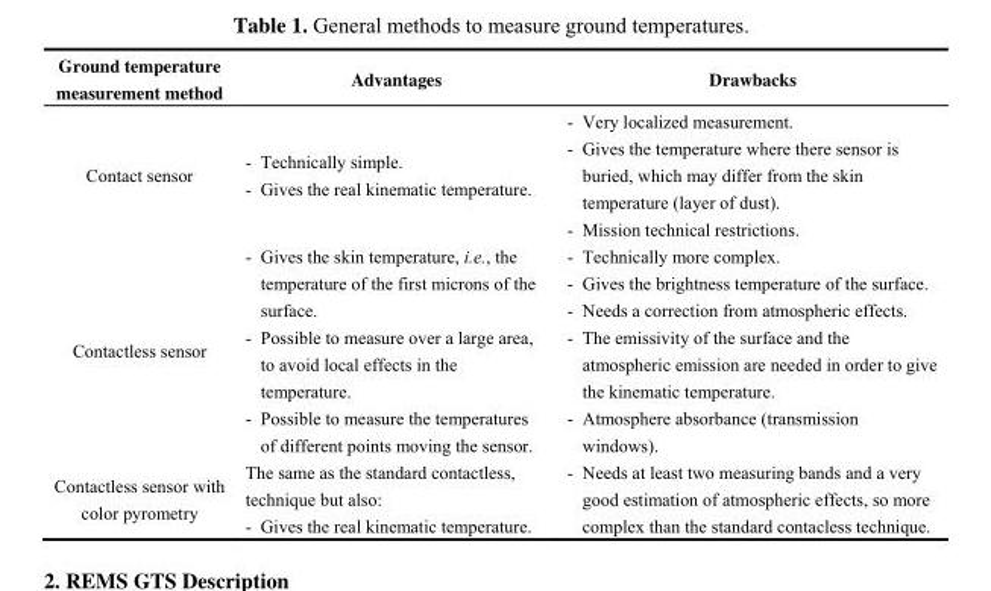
<table><thead><tr><td>Ground temperature measurement method</td><td>Advantages</td><td>Drawbacks</td></tr></thead><tbody><tr><td>Contact sensor</td><td>- Technically simple. - Gives the real kinematic temperature.</td><td>- Very localized measurement. - Gives the temperature where there sensor is buried, which may differ from the skin temperature (layer of dust). - Mission technical restrictions.</td></tr><tr><td>Contactless sensor</td><td>- Gives the skin temperature, i.e., the temperature of the first microns of the surface. - Possible to measure over a large area, to avoid local effects in the temperature. - Possible to measure the temperatures of different points moving the sensor.</td><td>- Technically more complex. - Gives the brightness temperature of the surface. - Needs a correction from atmospheric effects. - The emissivity of the surface and the atmospheric emission are needed in order to give the kinematic temperature. - Atmosphere absorbance (transmission windows).</td></tr><tr><td>Contactless sensor with color pyrometry</td><td>The same as the standard contactless, technique but also: - Gives the real kinematic temperature.</td><td>- Needs at least two measuring bands and a very good estimation of atmospheric effects, so more complex than the standard contacless technique.</td></tr></tbody></table>